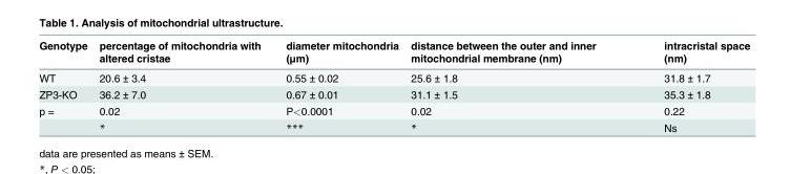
<table><thead><tr><td>Genotype</td><td>percentage of mitochondria with altered cristae</td><td>diameter mitochondria (μm)</td><td>distance between the outer and inner mitochondrial membrane (nm)</td><td>intracristal space (nm)</td></tr></thead><tbody><tr><td>WT</td><td>20.6 ± 3.4</td><td>0.55 ± 0.02</td><td>25.6 ± 1.8</td><td>31.8 ± 1.7</td></tr><tr><td>ZP3-KO</td><td>36.2 ± 7.0</td><td>0.67 ± 0.01</td><td>31.1 ± 1.5</td><td>35.3 ± 1.8</td></tr><tr><td rowspan="2">p =</td><td>0.02</td><td>P&lt;0.0001</td><td>0.02</td><td>0.22</td></tr><tr><td>*</td><td>***</td><td>*</td><td>Ns</td></tr></tbody></table>